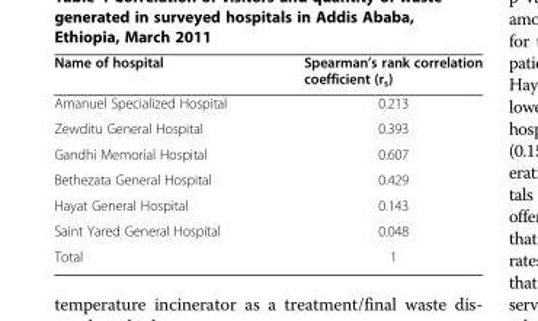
<table><thead><tr><td>Name of hospital</td><td>Spearman’s rank correlation coefficient (r<sub>s</sub>)</td></tr></thead><tbody><tr><td>Amanuel Specialized Hospital</td><td>0.213</td></tr><tr><td>Zewditu General Hospital</td><td>0.393</td></tr><tr><td>Gandhi Memorial Hospital</td><td>0.607</td></tr><tr><td>Bethezata General Hospital</td><td>0.429</td></tr><tr><td>Hayat General Hospital</td><td>0.143</td></tr><tr><td>Saint Yared General Hospital</td><td>0.048</td></tr><tr><td>Total</td><td>1</td></tr></tbody></table>